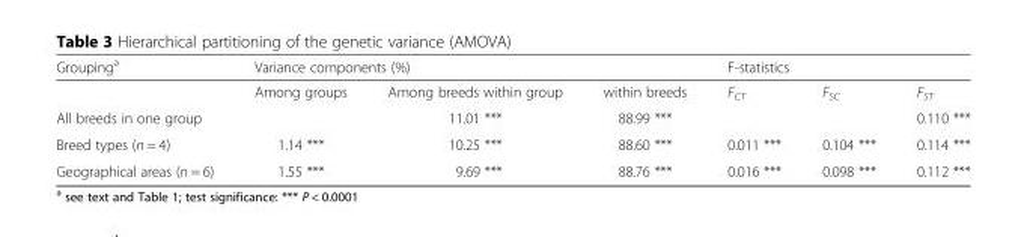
<table><thead><tr><td rowspan="2">Grouping<sup>a</sup></td><td colspan="3">Variance components (%)</td><td colspan="3">F-statistics</td></tr><tr><td>Among groups</td><td>Among breeds within group</td><td>within breeds</td><td>F<sub>CT</sub></td><td>F<sub>SC</sub></td><td>F<sub>ST</sub></td></tr></thead><tbody><tr><td>All breeds in one group</td><td></td><td>11.01 ***</td><td>88.99 ***</td><td></td><td></td><td>0.110 ***</td></tr><tr><td>Breed types (n = 4)</td><td>1.14 ***</td><td>10.25 ***</td><td>88.60 ***</td><td>0.011 ***</td><td>0.104 ***</td><td>0.114 ***</td></tr><tr><td>Geographical areas (n = 6)</td><td>1.55 ***</td><td>9.69 ***</td><td>88.76 ***</td><td>0.016 ***</td><td>0.098 ***</td><td>0.112 ***</td></tr></tbody></table>